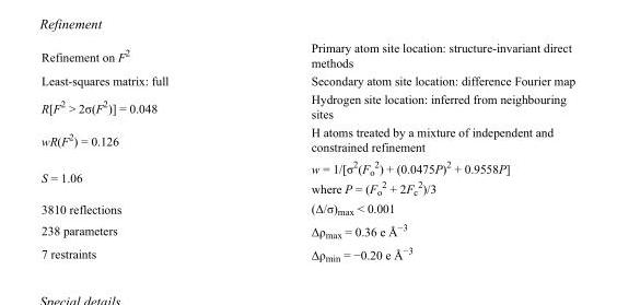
<table><tbody><tr><td>Refinement on F<sup>2</sup></td><td>Primary atom site location: structure-invariant direct methods</td></tr><tr><td>Least-squares matrix: full</td><td>Secondary atom site location: difference Fourier map</td></tr><tr><td>R[F<sup>2</sup> &gt; 2σ(F<sup>2</sup>)] = 0.048</td><td>Hydrogen site location: inferred from neighbouring sites</td></tr><tr><td>wR(F<sup>2</sup>) = 0.126</td><td>H atoms treated by a mixture of independent and constrained refinement</td></tr><tr><td>S = 1.06</td><td>w = 1/[σ<sup>2</sup>(F<sub>o</sub> <sup>2</sup>) + (0.0475P)<sup>2</sup> + 0.9558P] where P = (F<sub>o</sub> <sup>2</sup> + 2F<sub>c</sub> <sup>2</sup>)/3</td></tr><tr><td>3810 reflections</td><td>(Δ/σ)<sub>max</sub> &lt; 0.001</td></tr><tr><td>238 parameters</td><td>Δρ<sub>max</sub> = 0.36 e Å<sup>−3</sup></td></tr><tr><td>7 restraints</td><td>Δρ<sub>min</sub> = −0.20 e Å<sup>−3</sup></td></tr></tbody></table>